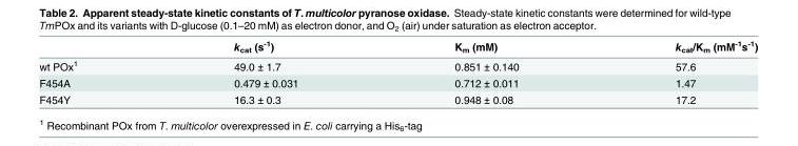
<table><thead><tr><td></td><td>k<sub>cat</sub> (s<sup>-1</sup>)</td><td>K<sub>m</sub> (mM)</td><td>k<sub>cat</sub>/K<sub>m</sub> (mM<sup>-1</sup>s<sup>-1</sup>)</td></tr></thead><tbody><tr><td>wt POx<sup>1</sup></td><td>49.0 ± 1.7</td><td>0.851 ± 0.140</td><td>57.6</td></tr><tr><td>F454A</td><td>0.479 ± 0.031</td><td>0.712 ± 0.011</td><td>1.47</td></tr><tr><td>F454Y</td><td>16.3 ± 0.3</td><td>0.948 ± 0.08</td><td>17.2</td></tr></tbody></table>